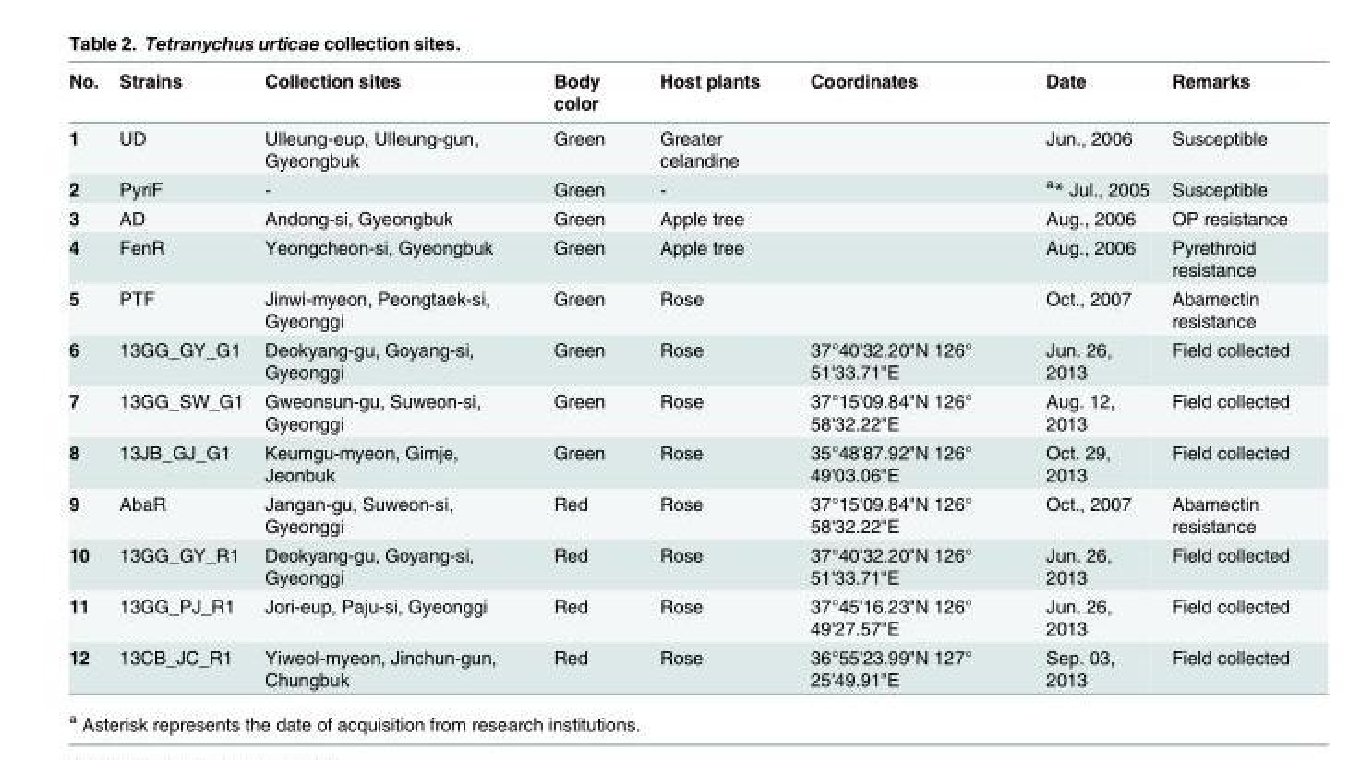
<table><thead><tr><td>No.</td><td>Strains</td><td>Collection sites</td><td>Body color</td><td>Host plants</td><td>Coordinates</td><td>Date</td><td>Remarks</td></tr></thead><tbody><tr><td>1</td><td>UD</td><td>Ulleung-eup, Ulleung-gun, Gyeongbuk</td><td>Green</td><td>Greater celandine</td><td></td><td>Jun., 2006</td><td>Susceptible</td></tr><tr><td>2</td><td>PyriF</td><td>-</td><td>Green</td><td>-</td><td></td><td><sup>a</sup>* Jul., 2005</td><td>Susceptible</td></tr><tr><td>3</td><td>AD</td><td>Andong-si, Gyeongbuk</td><td>Green</td><td>Apple tree</td><td></td><td>Aug., 2006</td><td>OP resistance</td></tr><tr><td>4</td><td>FenR</td><td>Yeongcheon-si, Gyeongbuk</td><td>Green</td><td>Apple tree</td><td></td><td>Aug., 2006</td><td>Pyrethroid resistance</td></tr><tr><td>5</td><td>PTF</td><td>Jinwi-myeon, Peongtaek-si, Gyeonggi</td><td>Green</td><td>Rose</td><td></td><td>Oct., 2007</td><td>Abamectin resistance</td></tr><tr><td>6</td><td>13GG_GY_G1</td><td>Deokyang-gu, Goyang-si, Gyeonggi</td><td>Green</td><td>Rose</td><td>37°40&#x27;32.20&quot;N 126° 51&#x27;33.71&quot;E</td><td>Jun. 26, 2013</td><td>Field collected</td></tr><tr><td>7</td><td>13GG_SW_G1</td><td>Gweonsun-gu, Suweon-si, Gyeonggi</td><td>Green</td><td>Rose</td><td>37°15&#x27;09.84&quot;N 126° 58&#x27;32.22&quot;E</td><td>Aug. 12, 2013</td><td>Field collected</td></tr><tr><td>8</td><td>13JB_GJ_G1</td><td>Keumgu-myeon, Gimje, Jeonbuk</td><td>Green</td><td>Rose</td><td>35°48&#x27;87.92&quot;N 126° 49&#x27;03.06&quot;E</td><td>Oct. 29, 2013</td><td>Field collected</td></tr><tr><td>9</td><td>AbaR</td><td>Jangan-gu, Suweon-si, Gyeonggi</td><td>Red</td><td>Rose</td><td>37°15&#x27;09.84&quot;N 126° 58&#x27;32.22&quot;E</td><td>Oct., 2007</td><td>Abamectin resistance</td></tr><tr><td>10</td><td>13GG_GY_R1</td><td>Deokyang-gu, Goyang-si, Gyeonggi</td><td>Red</td><td>Rose</td><td>37°40&#x27;32.20&quot;N 126° 51&#x27;33.71&quot;E</td><td>Jun. 26, 2013</td><td>Field collected</td></tr><tr><td>11</td><td>13GG_PJ_R1</td><td>Jori-eup, Paju-si, Gyeonggi</td><td>Red</td><td>Rose</td><td>37°45&#x27;16.23&quot;N 126° 49&#x27;27.57&quot;E</td><td>Jun. 26, 2013</td><td>Field collected</td></tr><tr><td>12</td><td>13CB_JC_R1</td><td>Yiweol-myeon, Jinchun-gun, Chungbuk</td><td>Red</td><td>Rose</td><td>36°55&#x27;23.99&quot;N 127° 25&#x27;49.91&quot;E</td><td>Sep. 03, 2013</td><td>Field collected</td></tr></tbody></table>